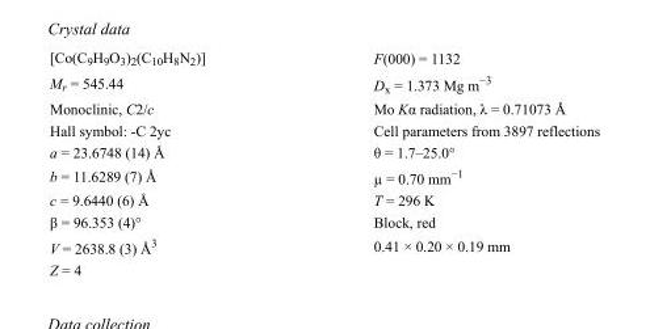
<table><tbody><tr><td>[Co(C<sub>9</sub>H<sub>9</sub>O<sub>3</sub>)<sub>2</sub>(C<sub>10</sub>H<sub>8</sub>N<sub>2</sub>)]</td><td>F(000) = 1132</td></tr><tr><td>M<sub>r</sub> = 545.44</td><td>D<sub>x</sub> = 1.373 Mg m<sup>−3</sup></td></tr><tr><td>Monoclinic, C2/c</td><td>Mo Kα radiation, λ = 0.71073 Å</td></tr><tr><td>Hall symbol: -C 2yc</td><td>Cell parameters from 3897 reflections</td></tr><tr><td>a = 23.6748 (14) Å</td><td>θ = 1.7–25.0°</td></tr><tr><td>b = 11.6289 (7) Å</td><td>µ = 0.70 mm<sup>−1</sup></td></tr><tr><td>c = 9.6440 (6) Å</td><td>T = 296 K</td></tr><tr><td>β = 96.353 (4)°</td><td>Block, red</td></tr><tr><td>V = 2638.8 (3) Å<sup>3</sup></td><td>0.41 × 0.20 × 0.19 mm</td></tr><tr><td>Z = 4</td><td></td></tr></tbody></table>